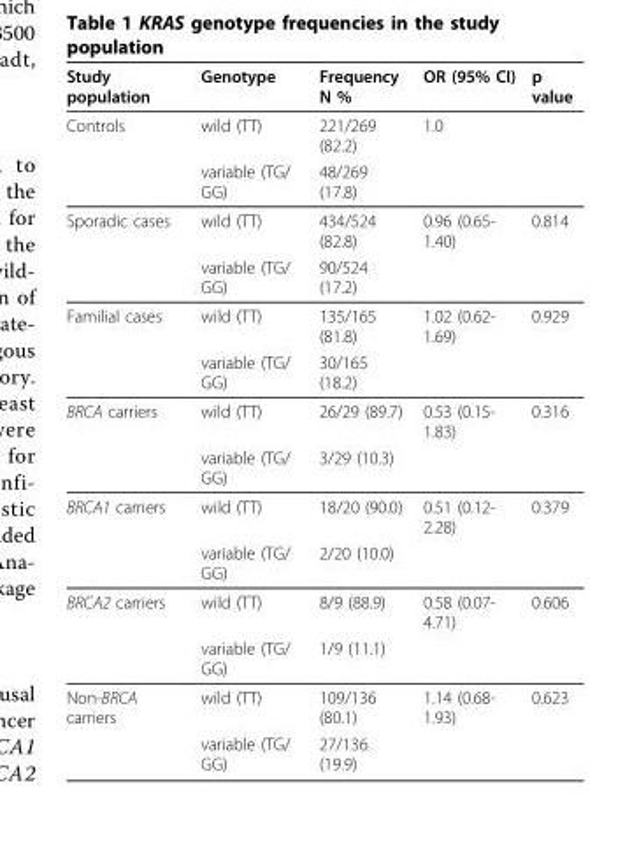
<table><thead><tr><td>Study population</td><td>Genotype</td><td>Frequency N %</td><td>OR (95% CI)</td><td>p value</td></tr></thead><tbody><tr><td rowspan="2">Controls</td><td>wild (TT)</td><td>221/269 (82.2)</td><td>1.0</td><td></td></tr><tr><td>variable (TG/ GG)</td><td>48/269 (17.8)</td><td></td><td></td></tr><tr><td rowspan="2">Sporadic cases</td><td>wild (TT)</td><td>434/524 (82.8)</td><td>0.96 (0.65- 1.40)</td><td>0.814</td></tr><tr><td>variable (TG/ GG)</td><td>90/524 (17.2)</td><td></td><td></td></tr><tr><td rowspan="2">Familial cases</td><td>wild (TT)</td><td>135/165 (81.8)</td><td>1.02 (0.62- 1.69)</td><td>0.929</td></tr><tr><td>variable (TG/ GG)</td><td>30/165 (18.2)</td><td></td><td></td></tr><tr><td rowspan="2">BRCA carriers</td><td>wild (TT)</td><td>26/29 (89.7)</td><td>0.53 (0.15- 1.83)</td><td>0.316</td></tr><tr><td>variable (TG/ GG)</td><td>3/29 (10.3)</td><td></td><td></td></tr><tr><td rowspan="2">BRCA1 carriers</td><td>wild (TT)</td><td>18/20 (90.0)</td><td>0.51 (0.12- 2.28)</td><td>0.379</td></tr><tr><td>variable (TG/ GG)</td><td>2/20 (10.0)</td><td></td><td></td></tr><tr><td rowspan="2">BRCA2 carriers</td><td>wild (TT)</td><td>8/9 (88.9)</td><td>0.58 (0.07- 4.71)</td><td>0.606</td></tr><tr><td>variable (TG/ GG)</td><td>1/9 (11.1)</td><td></td><td></td></tr><tr><td rowspan="2">Non-BRCA carriers</td><td>wild (TT)</td><td>109/136 (80.1)</td><td>1.14 (0.68- 1.93)</td><td>0.623</td></tr><tr><td>variable (TG/ GG)</td><td>27/136 (19.9)</td><td></td><td></td></tr></tbody></table>